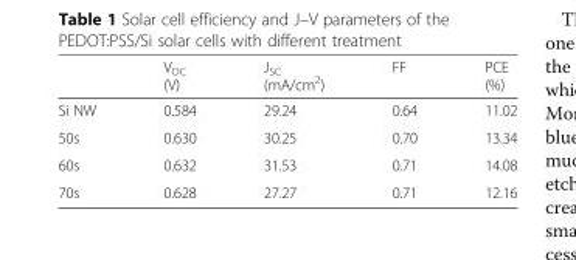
<table><thead><tr><td></td><td>V<sub>OC</sub> (V)</td><td>J<sub>SC</sub> (mA/cm<sup>2</sup>)</td><td>FF</td><td>PCE (%)</td></tr></thead><tbody><tr><td>Si NW</td><td>0.584</td><td>29.24</td><td>0.64</td><td>11.02</td></tr><tr><td>50s</td><td>0.630</td><td>30.25</td><td>0.70</td><td>13.34</td></tr><tr><td>60s</td><td>0.632</td><td>31.53</td><td>0.71</td><td>14.08</td></tr><tr><td>70s</td><td>0.628</td><td>27.27</td><td>0.71</td><td>12.16</td></tr></tbody></table>